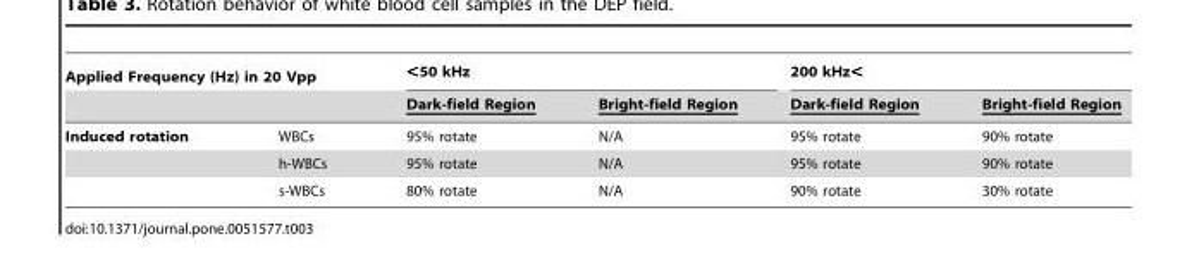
<table><thead><tr><td colspan="2">Applied Frequency (Hz) in 20 Vpp</td><td colspan="2">&lt;50 kHz</td><td colspan="2">200 kHz&lt;</td></tr><tr><td></td><td></td><td>Dark-field Region</td><td>Bright-field Region</td><td>Dark-field Region</td><td>Bright-field Region</td></tr></thead><tbody><tr><td rowspan="3">Induced rotation</td><td>WBCs</td><td>95% rotate</td><td>N/A</td><td>95% rotate</td><td>90% rotate</td></tr><tr><td>h-WBCs</td><td>95% rotate</td><td>N/A</td><td>95% rotate</td><td>90% rotate</td></tr><tr><td>s-WBCs</td><td>80% rotate</td><td>N/A</td><td>90% rotate</td><td>30% rotate</td></tr></tbody></table>